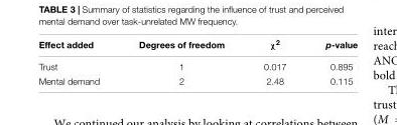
<table><thead><tr><td>Effect added</td><td>Degrees of freedom</td><td>χ<sup>2</sup></td><td>p-value</td></tr></thead><tbody><tr><td>Trust</td><td>1</td><td>0.017</td><td>0.895</td></tr><tr><td>Mental demand</td><td>2</td><td>2.48</td><td>0.115</td></tr></tbody></table>